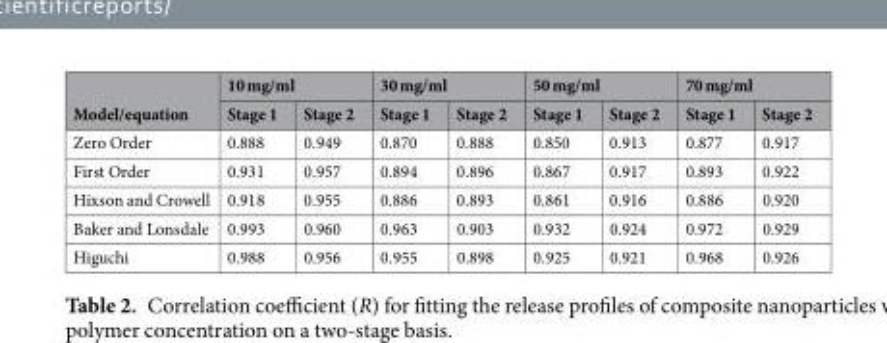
<table><thead><tr><td rowspan="2">Model/equation</td><td colspan="2">10 mg/ml</td><td colspan="2">30 mg/ml</td><td colspan="2">50 mg/ml</td><td colspan="2">70 mg/ml</td></tr><tr><td>Stage 1</td><td>Stage 2</td><td>Stage 1</td><td>Stage 2</td><td>Stage 1</td><td>Stage 2</td><td>Stage 1</td><td>Stage 2</td></tr></thead><tbody><tr><td>Zero Order</td><td>0.888</td><td>0.949</td><td>0.870</td><td>0.888</td><td>0.850</td><td>0.913</td><td>0.877</td><td>0.917</td></tr><tr><td>First Order</td><td>0.931</td><td>0.957</td><td>0.894</td><td>0.896</td><td>0.867</td><td>0.917</td><td>0.893</td><td>0.922</td></tr><tr><td>Hixson and Crowell</td><td>0.918</td><td>0.955</td><td>0.886</td><td>0.893</td><td>0.861</td><td>0.916</td><td>0.886</td><td>0.920</td></tr><tr><td>Baker and Lonsdale</td><td>0.993</td><td>0.960</td><td>0.963</td><td>0.903</td><td>0.932</td><td>0.924</td><td>0.972</td><td>0.929</td></tr><tr><td>Higuchi</td><td>0.988</td><td>0.956</td><td>0.955</td><td>0.898</td><td>0.925</td><td>0.921</td><td>0.968</td><td>0.926</td></tr></tbody></table>